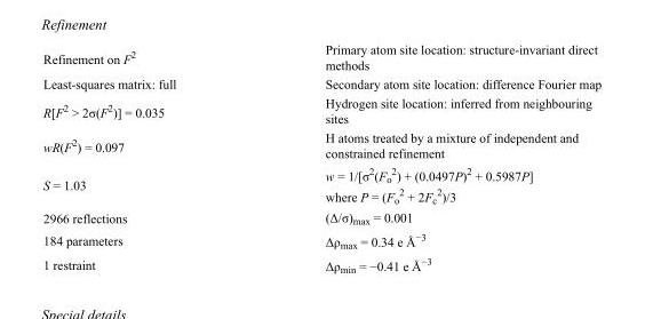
<table><tbody><tr><td>Refinement on F<sup>2</sup></td><td>Primary atom site location: structure-invariant direct methods</td></tr><tr><td>Least-squares matrix: full</td><td>Secondary atom site location: difference Fourier map</td></tr><tr><td>R[F<sup>2</sup> &gt; 2σ(F<sup>2</sup>)] = 0.035</td><td>Hydrogen site location: inferred from neighbouring sites</td></tr><tr><td>wR(F<sup>2</sup>) = 0.097</td><td>H atoms treated by a mixture of independent and constrained refinement</td></tr><tr><td>S = 1.03</td><td>w = 1/[σ<sup>2</sup>(F<sub>o</sub> <sup>2</sup>) + (0.0497P)<sup>2</sup> + 0.5987P] where P = (F<sub>o</sub> <sup>2</sup> + 2F<sub>c</sub> <sup>2</sup>)/3</td></tr><tr><td>2966 reflections</td><td>(Δ/σ)<sub>max</sub> = 0.001</td></tr><tr><td>184 parameters</td><td>Δρ<sub>max</sub> = 0.34 e Å<sup>−3</sup></td></tr><tr><td>1 restraint</td><td>Δρ<sub>min</sub> = −0.41 e Å<sup>−3</sup></td></tr></tbody></table>